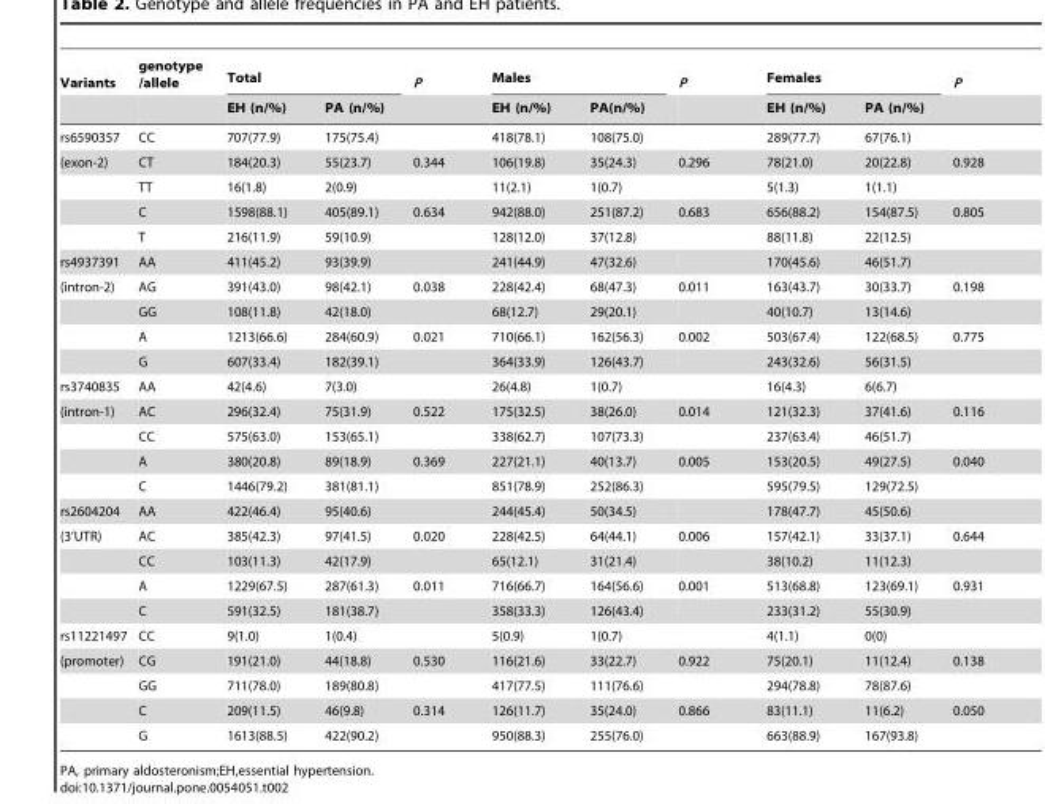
<table><thead><tr><td rowspan="2">Variants</td><td rowspan="2">genotype /allele</td><td colspan="2">Total</td><td rowspan="2">P</td><td colspan="2">Males</td><td rowspan="2">P</td><td colspan="2">Females</td><td rowspan="2">P</td></tr><tr><td>EH (n/%)</td><td>PA (n/%)</td><td>EH (n/%)</td><td>PA(n/%)</td><td>EH (n/%)</td><td>PA (n/%)</td></tr></thead><tbody><tr><td>rs6590357</td><td>CC</td><td>707(77.9)</td><td>175(75.4)</td><td></td><td>418(78.1)</td><td>108(75.0)</td><td></td><td>289(77.7)</td><td>67(76.1)</td><td></td></tr><tr><td rowspan="4">(exon-2)</td><td>CT</td><td>184(20.3)</td><td>55(23.7)</td><td>0.344</td><td>106(19.8)</td><td>35(24.3)</td><td>0.296</td><td>78(21.0)</td><td>20(22.8)</td><td>0.928</td></tr><tr><td>TT</td><td>16(1.8)</td><td>2(0.9)</td><td></td><td>11(2.1)</td><td>1(0.7)</td><td></td><td>5(1.3)</td><td>1(1.1)</td><td></td></tr><tr><td>C</td><td>1598(88.1)</td><td>405(89.1)</td><td>0.634</td><td>942(88.0)</td><td>251(87.2)</td><td>0.683</td><td>656(88.2)</td><td>154(87.5)</td><td>0.805</td></tr><tr><td>T</td><td>216(11.9)</td><td>59(10.9)</td><td></td><td>128(12.0)</td><td>37(12.8)</td><td></td><td>88(11.8)</td><td>22(12.5)</td><td></td></tr><tr><td>rs4937391</td><td>AA</td><td>411(45.2)</td><td>93(39.9)</td><td></td><td>241(44.9)</td><td>47(32.6)</td><td></td><td>170(45.6)</td><td>46(51.7)</td><td></td></tr><tr><td rowspan="4">(intron-2)</td><td>AG</td><td>391(43.0)</td><td>98(42.1)</td><td>0.038</td><td>228(42.4)</td><td>68(47.3)</td><td>0.011</td><td>163(43.7)</td><td>30(33.7)</td><td>0.198</td></tr><tr><td>GG</td><td>108(11.8)</td><td>42(18.0)</td><td></td><td>68(12.7)</td><td>29(20.1)</td><td></td><td>40(10.7)</td><td>13(14.6)</td><td></td></tr><tr><td>A</td><td>1213(66.6)</td><td>284(60.9)</td><td>0.021</td><td>710(66.1)</td><td>162(56.3)</td><td>0.002</td><td>503(67.4)</td><td>122(68.5)</td><td>0.775</td></tr><tr><td>G</td><td>607(33.4)</td><td>182(39.1)</td><td></td><td>364(33.9)</td><td>126(43.7)</td><td></td><td>243(32.6)</td><td>56(31.5)</td><td></td></tr><tr><td>rs3740835</td><td>AA</td><td>42(4.6)</td><td>7(3.0)</td><td></td><td>26(4.8)</td><td>1(0.7)</td><td></td><td>16(4.3)</td><td>6(6.7)</td><td></td></tr><tr><td rowspan="4">(intron-1)</td><td>AC</td><td>296(32.4)</td><td>75(31.9)</td><td>0.522</td><td>175(32.5)</td><td>38(26.0)</td><td>0.014</td><td>121(32.3)</td><td>37(41.6)</td><td>0.116</td></tr><tr><td>CC</td><td>575(63.0)</td><td>153(65.1)</td><td></td><td>338(62.7)</td><td>107(73.3)</td><td></td><td>237(63.4)</td><td>46(51.7)</td><td></td></tr><tr><td>A</td><td>380(20.8)</td><td>89(18.9)</td><td>0.369</td><td>227(21.1)</td><td>40(13.7)</td><td>0.005</td><td>153(20.5)</td><td>49(27.5)</td><td>0.040</td></tr><tr><td>C</td><td>1446(79.2)</td><td>381(81.1)</td><td></td><td>851(78.9)</td><td>252(86.3)</td><td></td><td>595(79.5)</td><td>129(72.5)</td><td></td></tr><tr><td>rs2604204</td><td>AA</td><td>422(46.4)</td><td>95(40.6)</td><td></td><td>244(45.4)</td><td>50(34.5)</td><td></td><td>178(47.7)</td><td>45(50.6)</td><td></td></tr><tr><td rowspan="4">(3’UTR)</td><td>AC</td><td>385(42.3)</td><td>97(41.5)</td><td>0.020</td><td>228(42.5)</td><td>64(44.1)</td><td>0.006</td><td>157(42.1)</td><td>33(37.1)</td><td>0.644</td></tr><tr><td>CC</td><td>103(11.3)</td><td>42(17.9)</td><td></td><td>65(12.1)</td><td>31(21.4)</td><td></td><td>38(10.2)</td><td>11(12.3)</td><td></td></tr><tr><td>A</td><td>1229(67.5)</td><td>287(61.3)</td><td>0.011</td><td>716(66.7)</td><td>164(56.6)</td><td>0.001</td><td>513(68.8)</td><td>123(69.1)</td><td>0.931</td></tr><tr><td>C</td><td>591(32.5)</td><td>181(38.7)</td><td></td><td>358(33.3)</td><td>126(43.4)</td><td></td><td>233(31.2)</td><td>55(30.9)</td><td></td></tr><tr><td>rs11221497</td><td>CC</td><td>9(1.0)</td><td>1(0.4)</td><td></td><td>5(0.9)</td><td>1(0.7)</td><td></td><td>4(1.1)</td><td>0(0)</td><td></td></tr><tr><td rowspan="4">(promoter)</td><td>CG</td><td>191(21.0)</td><td>44(18.8)</td><td>0.530</td><td>116(21.6)</td><td>33(22.7)</td><td>0.922</td><td>75(20.1)</td><td>11(12.4)</td><td>0.138</td></tr><tr><td>GG</td><td>711(78.0)</td><td>189(80.8)</td><td></td><td>417(77.5)</td><td>111(76.6)</td><td></td><td>294(78.8)</td><td>78(87.6)</td><td></td></tr><tr><td>C</td><td>209(11.5)</td><td>46(9.8)</td><td>0.314</td><td>126(11.7)</td><td>35(24.0)</td><td>0.866</td><td>83(11.1)</td><td>11(6.2)</td><td>0.050</td></tr><tr><td>G</td><td>1613(88.5)</td><td>422(90.2)</td><td></td><td>950(88.3)</td><td>255(76.0)</td><td></td><td>663(88.9)</td><td>167(93.8)</td><td></td></tr></tbody></table>